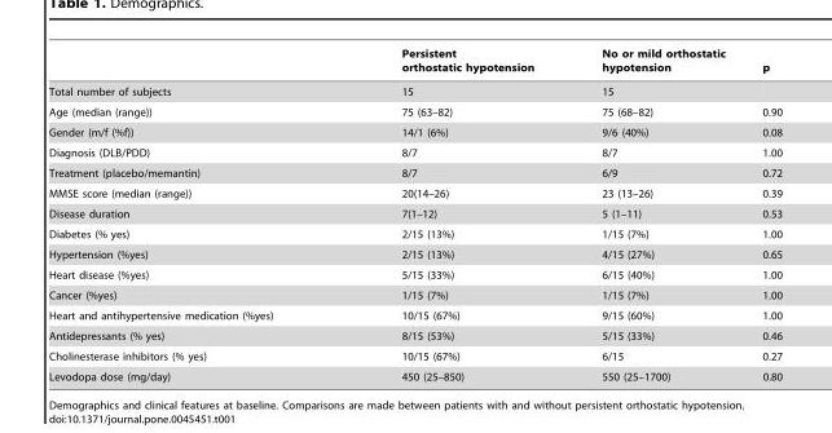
<table><thead><tr><td></td><td>Persistent orthostatic hypotension</td><td>No or mild orthostatic hypotension</td><td>p</td></tr></thead><tbody><tr><td>Total number of subjects</td><td>15</td><td>15</td><td></td></tr><tr><td>Age (median (range))</td><td>75 (63–82)</td><td>75 (68–82)</td><td>0.90</td></tr><tr><td>Gender (m/f (%f))</td><td>14/1 (6%)</td><td>9/6 (40%)</td><td>0.08</td></tr><tr><td>Diagnosis (DLB/PDD)</td><td>8/7</td><td>8/7</td><td>1.00</td></tr><tr><td>Treatment (placebo/memantin)</td><td>8/7</td><td>6/9</td><td>0.72</td></tr><tr><td>MMSE score (median (range))</td><td>20(14–26)</td><td>23 (13–26)</td><td>0.39</td></tr><tr><td>Disease duration</td><td>7(1–12)</td><td>5 (1–11)</td><td>0.53</td></tr><tr><td>Diabetes (% yes)</td><td>2/15 (13%)</td><td>1/15 (7%)</td><td>1.00</td></tr><tr><td>Hypertension (%yes)</td><td>2/15 (13%)</td><td>4/15 (27%)</td><td>0.65</td></tr><tr><td>Heart disease (%yes)</td><td>5/15 (33%)</td><td>6/15 (40%)</td><td>1.00</td></tr><tr><td>Cancer (%yes)</td><td>1/15 (7%)</td><td>1/15 (7%)</td><td>1.00</td></tr><tr><td>Heart and antihypertensive medication (%yes)</td><td>10/15 (67%)</td><td>9/15 (60%)</td><td>1.00</td></tr><tr><td>Antidepressants (% yes)</td><td>8/15 (53%)</td><td>5/15 (33%)</td><td>0.46</td></tr><tr><td>Cholinesterase inhibitors (% yes)</td><td>10/15 (67%)</td><td>6/15</td><td>0.27</td></tr><tr><td>Levodopa dose (mg/day)</td><td>450 (25–850)</td><td>550 (25–1700)</td><td>0.80</td></tr></tbody></table>